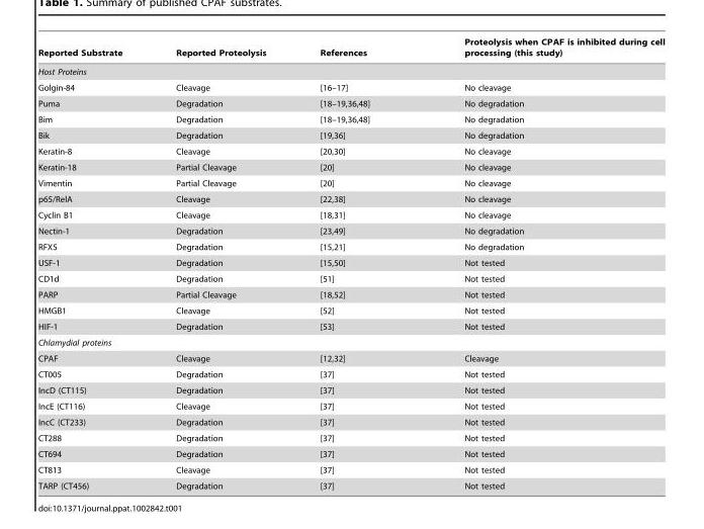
<table><thead><tr><td>Reported Substrate</td><td>Reported Proteolysis</td><td>References</td><td>Proteolysis when CPAF is inhibited during cell processing (this study)</td></tr></thead><tbody><tr><td colspan="4">Host Proteins</td></tr><tr><td>Golgin-84</td><td>Cleavage</td><td>[16–17]</td><td>No cleavage</td></tr><tr><td>Puma</td><td>Degradation</td><td>[18–19,36,48]</td><td>No degradation</td></tr><tr><td>Bim</td><td>Degradation</td><td>[18–19,36,48]</td><td>No degradation</td></tr><tr><td>Bik</td><td>Degradation</td><td>[19,36]</td><td>No degradation</td></tr><tr><td>Keratin-8</td><td>Cleavage</td><td>[20,30]</td><td>No cleavage</td></tr><tr><td>Keratin-18</td><td>Partial Cleavage</td><td>[20]</td><td>No cleavage</td></tr><tr><td>Vimentin</td><td>Partial Cleavage</td><td>[20]</td><td>No cleavage</td></tr><tr><td>p65/RelA</td><td>Cleavage</td><td>[22,38]</td><td>No cleavage</td></tr><tr><td>Cyclin B1</td><td>Cleavage</td><td>[18,31]</td><td>No cleavage</td></tr><tr><td>Nectin-1</td><td>Degradation</td><td>[23,49]</td><td>No degradation</td></tr><tr><td>RFX5</td><td>Degradation</td><td>[15,21]</td><td>No degradation</td></tr><tr><td>USF-1</td><td>Degradation</td><td>[15,50]</td><td>Not tested</td></tr><tr><td>CD1d</td><td>Degradation</td><td>[51]</td><td>Not tested</td></tr><tr><td>PARP</td><td>Partial Cleavage</td><td>[18,52]</td><td>Not tested</td></tr><tr><td>HMGB1</td><td>Cleavage</td><td>[52]</td><td>Not tested</td></tr><tr><td>HIF-1</td><td>Degradation</td><td>[53]</td><td>Not tested</td></tr><tr><td colspan="4">Chlamydial proteins</td></tr><tr><td>CPAF</td><td>Cleavage</td><td>[12,32]</td><td>Cleavage</td></tr><tr><td>CT005</td><td>Degradation</td><td>[37]</td><td>Not tested</td></tr><tr><td>IncD (CT115)</td><td>Degradation</td><td>[37]</td><td>Not tested</td></tr><tr><td>IncE (CT116)</td><td>Cleavage</td><td>[37]</td><td>Not tested</td></tr><tr><td>IncC (CT233)</td><td>Degradation</td><td>[37]</td><td>Not tested</td></tr><tr><td>CT288</td><td>Degradation</td><td>[37]</td><td>Not tested</td></tr><tr><td>CT694</td><td>Degradation</td><td>[37]</td><td>Not tested</td></tr><tr><td>CT813</td><td>Cleavage</td><td>[37]</td><td>Not tested</td></tr><tr><td>TARP (CT456)</td><td>Degradation</td><td>[37]</td><td>Not tested</td></tr></tbody></table>